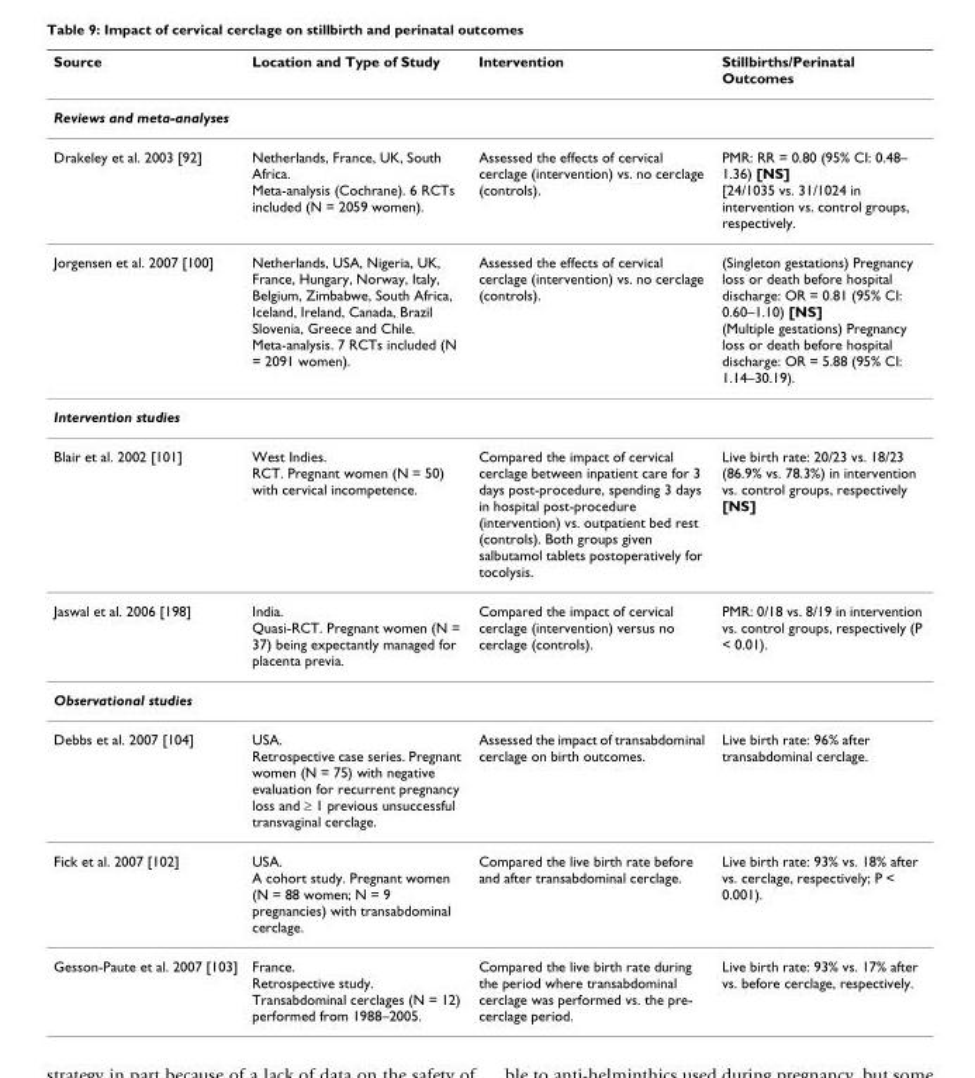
<table><thead><tr><td>Source</td><td>Location and Type of Study</td><td>Intervention</td><td>Stillbirths/Perinatal Outcomes</td></tr></thead><tbody><tr><td colspan="4">Reviews and meta-analyses</td></tr><tr><td>Drakeley et al. 2003 [92]</td><td>Netherlands, France, UK, South Africa. Meta-analysis (Cochrane). 6 RCTs included (N = 2059 women).</td><td>Assessed the effects of cervical cerclage (intervention) vs. no cerclage (controls).</td><td>PMR: RR = 0.80 (95% CI: 0.48– 1.36) [NS] [24/1035 vs. 31/1024 in intervention vs. control groups, respectively.</td></tr><tr><td>Jorgensen et al. 2007 [100]</td><td>Netherlands, USA, Nigeria, UK, France, Hungary, Norway, Italy, Belgium, Zimbabwe, South Africa, Iceland, Ireland, Canada, Brazil Slovenia, Greece and Chile. Meta-analysis. 7 RCTs included (N = 2091 women).</td><td>Assessed the effects of cervical cerclage (intervention) vs. no cerclage (controls).</td><td>(Singleton gestations) Pregnancy loss or death before hospital discharge: OR = 0.81 (95% CI: 0.60–1.10) [NS] (Multiple gestations) Pregnancy loss or death before hospital discharge: OR = 5.88 (95% CI: 1.14–30.19).</td></tr><tr><td colspan="4">Intervention studies</td></tr><tr><td>Blair et al. 2002 [101]</td><td>West Indies. RCT. Pregnant women (N = 50) with cervical incompetence.</td><td>Compared the impact of cervical cerclage between inpatient care for 3 days post-procedure, spending 3 days in hospital post-procedure (intervention) vs. outpatient bed rest (controls). Both groups given salbutamol tablets postoperatively for tocolysis.</td><td>Live birth rate: 20/23 vs. 18/23 (86.9% vs. 78.3%) in intervention vs. control groups, respectively [NS]</td></tr><tr><td>Jaswal et al. 2006 [198]</td><td>India. Quasi-RCT. Pregnant women (N = 37) being expectantly managed for placenta previa.</td><td>Compared the impact of cervical cerclage (intervention) versus no cerclage (controls).</td><td>PMR: 0/18 vs. 8/19 in intervention vs. control groups, respectively (P &lt; 0.01).</td></tr><tr><td colspan="4">Observational studies</td></tr><tr><td>Debbs et al. 2007 [104]</td><td>USA. Retrospective case series. Pregnant women (N = 75) with negative evaluation for recurrent pregnancy loss and ≥ 1 previous unsuccessful transvaginal cerclage.</td><td>Assessed the impact of transabdominal cerclage on birth outcomes.</td><td>Live birth rate: 96% after transabdominal cerclage.</td></tr><tr><td>Fick et al. 2007 [102]</td><td>USA. A cohort study. Pregnant women (N = 88 women; N = 9 pregnancies) with transabdominal cerclage.</td><td>Compared the live birth rate before and after transabdominal cerclage.</td><td>Live birth rate: 93% vs. 18% after vs. cerclage, respectively; P &lt; 0.001).</td></tr><tr><td>Gesson-Paute et al. 2007 [103]</td><td>France. Retrospective study. Transabdominal cerclages (N = 12) performed from 1988–2005.</td><td>Compared the live birth rate during the period where transabdominal cerclage was performed vs. the pre- cerclage period.</td><td>Live birth rate: 93% vs. 17% after vs. before cerclage, respectively.</td></tr></tbody></table>